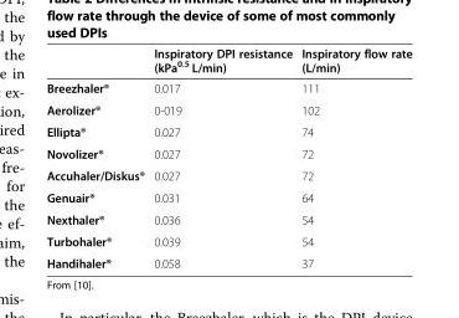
<table><thead><tr><td></td><td>Inspiratory DPI resistance (kPa<sup>0.5</sup> L/min)</td><td>Inspiratory flow rate (L/min)</td></tr></thead><tbody><tr><td>Breezhaler®</td><td>0.017</td><td>111</td></tr><tr><td>Aerolizer®</td><td>0-019</td><td>102</td></tr><tr><td>Ellipta®</td><td>0.027</td><td>74</td></tr><tr><td>Novolizer®</td><td>0.027</td><td>72</td></tr><tr><td>Accuhaler/Diskus®</td><td>0.027</td><td>72</td></tr><tr><td>Genuair®</td><td>0.031</td><td>64</td></tr><tr><td>Nexthaler®</td><td>0.036</td><td>54</td></tr><tr><td>Turbohaler®</td><td>0.039</td><td>54</td></tr><tr><td>Handihaler®</td><td>0.058</td><td>37</td></tr></tbody></table>